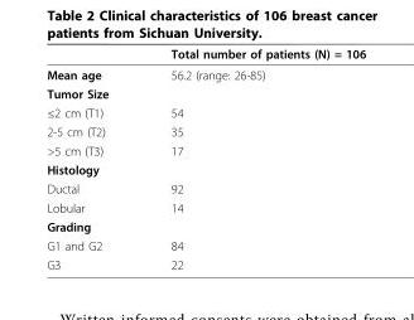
<table><thead><tr><td></td><td>Total number of patients (N) = 106</td></tr></thead><tbody><tr><td>Mean age</td><td>56.2 (range: 26-85)</td></tr><tr><td colspan="2">Tumor Size</td></tr><tr><td>≤2 cm (T1)</td><td>54</td></tr><tr><td>2-5 cm (T2)</td><td>35</td></tr><tr><td>&gt;5 cm (T3)</td><td>17</td></tr><tr><td colspan="2">Histology</td></tr><tr><td>Ductal</td><td>92</td></tr><tr><td>Lobular</td><td>14</td></tr><tr><td colspan="2">Grading</td></tr><tr><td>G1 and G2</td><td>84</td></tr><tr><td>G3</td><td>22</td></tr></tbody></table>